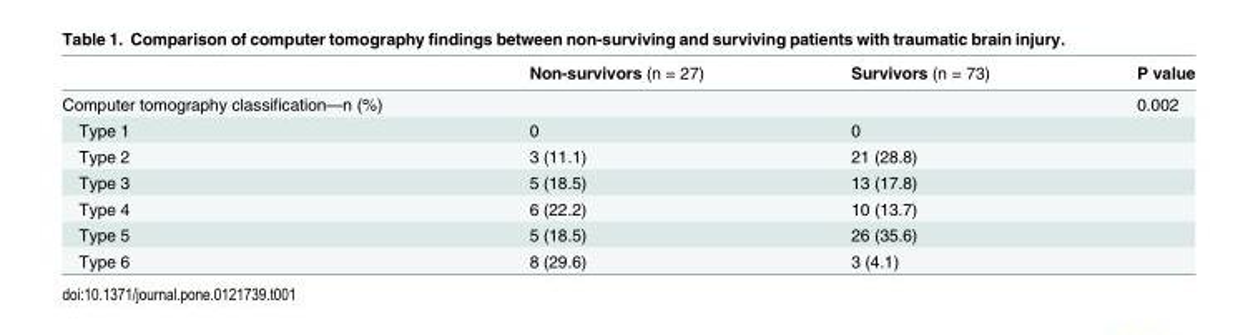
<table><thead><tr><td></td><td>Non-survivors (n = 27)</td><td>Survivors (n = 73)</td><td>P value</td></tr></thead><tbody><tr><td>Computer tomography classification—n (%)</td><td></td><td></td><td>0.002</td></tr><tr><td>Type 1</td><td>0</td><td>0</td><td></td></tr><tr><td>Type 2</td><td>3 (11.1)</td><td>21 (28.8)</td><td></td></tr><tr><td>Type 3</td><td>5 (18.5)</td><td>13 (17.8)</td><td></td></tr><tr><td>Type 4</td><td>6 (22.2)</td><td>10 (13.7)</td><td></td></tr><tr><td>Type 5</td><td>5 (18.5)</td><td>26 (35.6)</td><td></td></tr><tr><td>Type 6</td><td>8 (29.6)</td><td>3 (4.1)</td><td></td></tr></tbody></table>